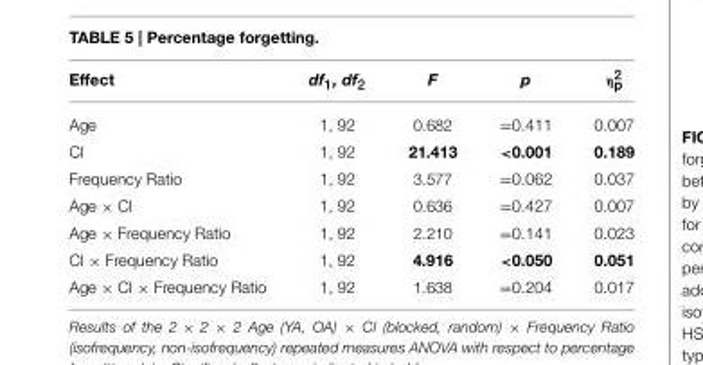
<table><thead><tr><td>Effect</td><td>df<sub>1</sub>, df<sub>2</sub></td><td>F</td><td>p</td><td>η<sup>2</sup><sub>p</sub></td></tr></thead><tbody><tr><td>Age</td><td>1, 92</td><td>0.682</td><td>=0.411</td><td>0.007</td></tr><tr><td>CI</td><td>1, 92</td><td>21.413</td><td>&lt;0.001</td><td>0.189</td></tr><tr><td>Frequency Ratio</td><td>1, 92</td><td>3.577</td><td>=0.062</td><td>0.037</td></tr><tr><td>Age × CI</td><td>1, 92</td><td>0.636</td><td>=0.427</td><td>0.007</td></tr><tr><td>Age × Frequency Ratio</td><td>1, 92</td><td>2.210</td><td>=0.141</td><td>0.023</td></tr><tr><td>CI × Frequency Ratio</td><td>1, 92</td><td>4.916</td><td>&lt;0.050</td><td>0.051</td></tr><tr><td>Age × CI × Frequency Ratio</td><td>1, 92</td><td>1.638</td><td>=0.204</td><td>0.017</td></tr></tbody></table>